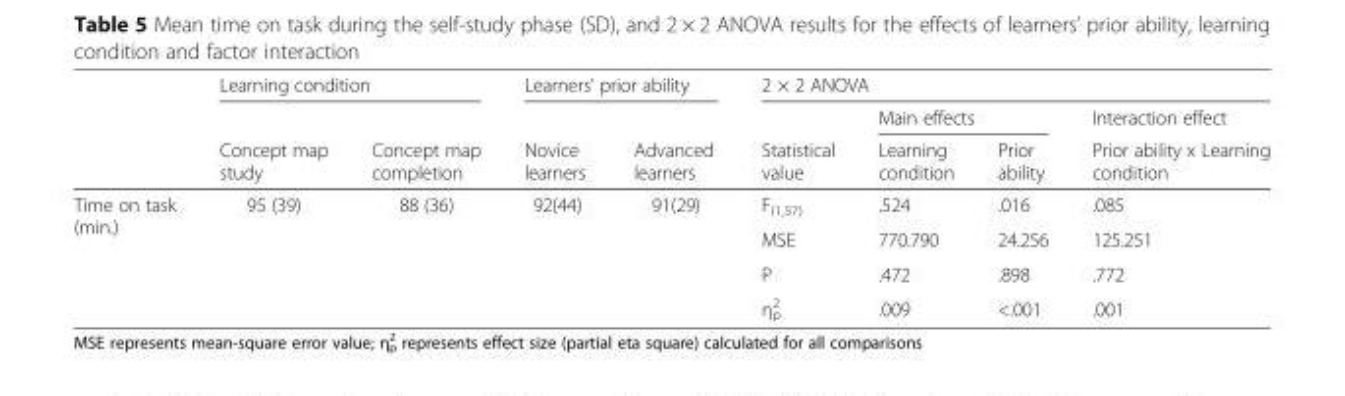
<table><thead><tr><td rowspan="3"></td><td colspan="2">Learning condition</td><td colspan="2">Learners’ prior ability</td><td colspan="4">2 × 2 ANOVA</td></tr><tr><td rowspan="2">Concept map study</td><td rowspan="2">Concept map completion</td><td rowspan="2">Novice learners</td><td rowspan="2">Advanced learners</td><td rowspan="2">Statistical value</td><td colspan="2">Main effects</td><td rowspan="2">Interaction effect Prior ability x Learning condition</td></tr><tr><td>Learning condition</td><td>Prior ability</td></tr></thead><tbody><tr><td rowspan="4">Time on task (min.)</td><td rowspan="4">95 (39)</td><td rowspan="4">88 (36)</td><td rowspan="4">92(44)</td><td rowspan="4">91(29)</td><td>F<sub>(1,57)</sub></td><td>.524</td><td>.016</td><td>.085</td></tr><tr><td>MSE</td><td>770.790</td><td>24.256</td><td>125.251</td></tr><tr><td>P</td><td>.472</td><td>.898</td><td>.772</td></tr><tr><td>η<sub>p</sub> <sup>2</sup></td><td>.009</td><td>&lt;.001</td><td>.001</td></tr></tbody></table>